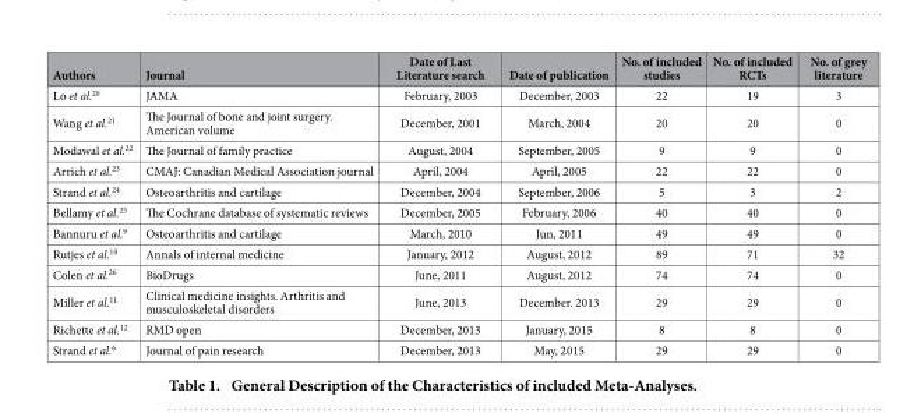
<table><thead><tr><td>Authors</td><td>Journal</td><td>Date of Last Literature search</td><td>Date of publication</td><td>No. of included studies</td><td>No. of included RCTs</td><td>No. of grey literature</td></tr></thead><tbody><tr><td>Lo et al.<sup>20</sup></td><td>JAMA</td><td>February, 2003</td><td>December, 2003</td><td>22</td><td>19</td><td>3</td></tr><tr><td>Wang et al.<sup>21</sup></td><td>The Journal of bone and joint surgery. American volume</td><td>December, 2001</td><td>March, 2004</td><td>20</td><td>20</td><td>0</td></tr><tr><td>Modawal et al.<sup>22</sup></td><td>The Journal of family practice</td><td>August, 2004</td><td>September, 2005</td><td>9</td><td>9</td><td>0</td></tr><tr><td>Arrich et al.<sup>23</sup></td><td>CMAJ: Canadian Medical Association journal</td><td>April, 2004</td><td>April, 2005</td><td>22</td><td>22</td><td>0</td></tr><tr><td>Strand et al.<sup>24</sup></td><td>Osteoarthritis and cartilage</td><td>December, 2004</td><td>September, 2006</td><td>5</td><td>3</td><td>2</td></tr><tr><td>Bellamy et al.<sup>25</sup></td><td>The Cochrane database of systematic reviews</td><td>December, 2005</td><td>February, 2006</td><td>40</td><td>40</td><td>0</td></tr><tr><td>Bannuru et al.<sup>9</sup></td><td>Osteoarthritis and cartilage</td><td>March, 2010</td><td>Jun, 2011</td><td>49</td><td>49</td><td>0</td></tr><tr><td>Rutjes et al.<sup>10</sup></td><td>Annals of internal medicine</td><td>January, 2012</td><td>August, 2012</td><td>89</td><td>71</td><td>32</td></tr><tr><td>Colen et al.<sup>26</sup></td><td>BioDrugs</td><td>June, 2011</td><td>August, 2012</td><td>74</td><td>74</td><td>0</td></tr><tr><td>Miller et al.<sup>11</sup></td><td>Clinical medicine insights. Arthritis and musculoskeletal disorders</td><td>June, 2013</td><td>December. 2013</td><td>29</td><td>29</td><td>0</td></tr><tr><td>Richette et al.<sup>12</sup></td><td>RMD open</td><td>December, 2013</td><td>January, 2015</td><td>8</td><td>8</td><td>0</td></tr><tr><td>Strand et al.<sup>6</sup></td><td>Journal of pain research</td><td>December, 2013</td><td>May, 2015</td><td>29</td><td>29</td><td>0</td></tr></tbody></table>